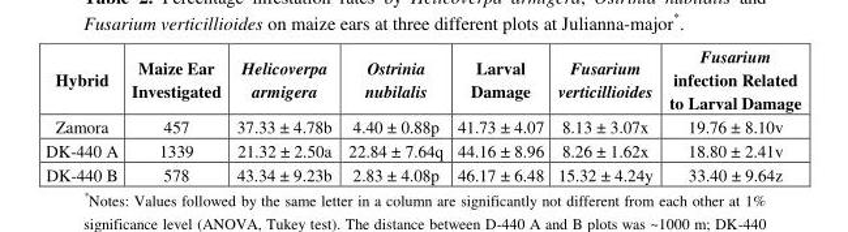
<table><thead><tr><td>Hybrid</td><td>Maize Ear Investigated</td><td>Helicoverpa armigera</td><td>Ostrinia nubilalis</td><td>Larval Damage</td><td>Fusarium verticillioides</td><td>Fusarium infection Related to Larval Damage</td></tr></thead><tbody><tr><td>Zamora</td><td>457</td><td>37.33 ± 4.78b</td><td>4.40 ± 0.88p</td><td>41.73 ± 4.07</td><td>8.13 ± 3.07x</td><td>19.76 ± 8.10v</td></tr><tr><td>DK-440 A</td><td>1339</td><td>21.32 ± 2.50a</td><td>22.84 ± 7.64q</td><td>44.16 ± 8.96</td><td>8.26 ± 1.62x</td><td>18.80 ± 2.41v</td></tr><tr><td>DK-440 B</td><td>578</td><td>43.34 ± 9.23b</td><td>2.83 ± 4.08p</td><td>46.17 ± 6.48</td><td>15.32 ± 4.24y</td><td>33.40 ± 9.64z</td></tr></tbody></table>